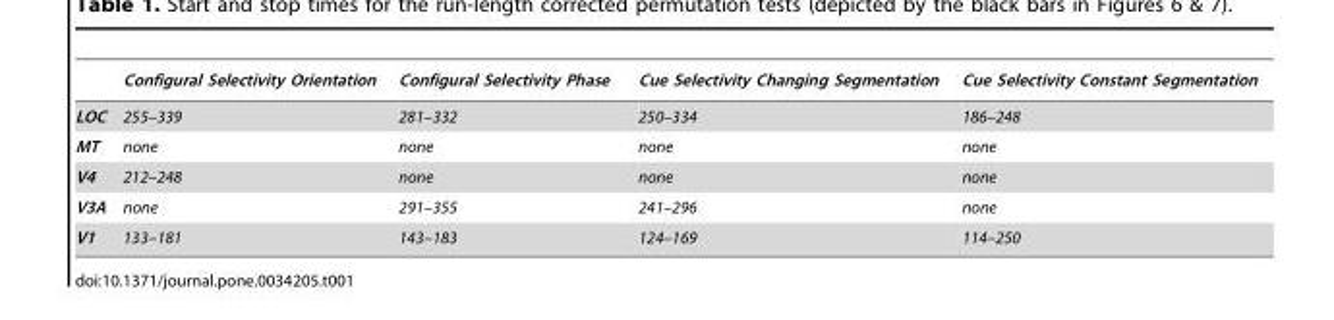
<table><thead><tr><td></td><td>Configural Selectivity Orientation</td><td>Configural Selectivity Phase</td><td>Cue Selectivity Changing Segmentation</td><td>Cue Selectivity Constant Segmentation</td></tr></thead><tbody><tr><td>LOC</td><td>255–339</td><td>281–332</td><td>250–334</td><td>186–248</td></tr><tr><td>MT</td><td>none</td><td>none</td><td>none</td><td>none</td></tr><tr><td>V4</td><td>212–248</td><td>none</td><td>none</td><td>none</td></tr><tr><td>V3A</td><td>none</td><td>291–355</td><td>241–296</td><td>none</td></tr><tr><td>V1</td><td>133–181</td><td>143–183</td><td>124–169</td><td>114–250</td></tr></tbody></table>